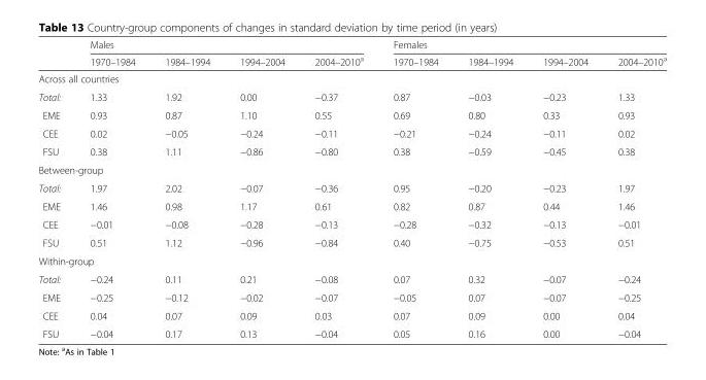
<table><thead><tr><td rowspan="2"></td><td colspan="4">Males</td><td colspan="4">Females</td></tr><tr><td>1970–1984</td><td>1984–1994</td><td>1994–2004</td><td>2004–2010<sup>a</sup></td><td>1970–1984</td><td>1984–1994</td><td>1994–2004</td><td>2004–2010<sup>a</sup></td></tr></thead><tbody><tr><td colspan="9">Across all countries</td></tr><tr><td>Total:</td><td>1.33</td><td>1.92</td><td>0.00</td><td>−0.37</td><td>0.87</td><td>−0.03</td><td>−0.23</td><td>1.33</td></tr><tr><td>EME</td><td>0.93</td><td>0.87</td><td>1.10</td><td>0.55</td><td>0.69</td><td>0.80</td><td>0.33</td><td>0.93</td></tr><tr><td>CEE</td><td>0.02</td><td>−0.05</td><td>−0.24</td><td>−0.11</td><td>−0.21</td><td>−0.24</td><td>−0.11</td><td>0.02</td></tr><tr><td>FSU</td><td>0.38</td><td>1.11</td><td>−0.86</td><td>−0.80</td><td>0.38</td><td>−0.59</td><td>−0.45</td><td>0.38</td></tr><tr><td colspan="9">Between-group</td></tr><tr><td>Total:</td><td>1.97</td><td>2.02</td><td>−0.07</td><td>−0.36</td><td>0.95</td><td>−0.20</td><td>−0.23</td><td>1.97</td></tr><tr><td>EME</td><td>1.46</td><td>0.98</td><td>1.17</td><td>0.61</td><td>0.82</td><td>0.87</td><td>0.44</td><td>1.46</td></tr><tr><td>CEE</td><td>−0.01</td><td>−0.08</td><td>−0.28</td><td>−0.13</td><td>−0.28</td><td>−0.32</td><td>−0.13</td><td>−0.01</td></tr><tr><td>FSU</td><td>0.51</td><td>1.12</td><td>−0.96</td><td>−0.84</td><td>0.40</td><td>−0.75</td><td>−0.53</td><td>0.51</td></tr><tr><td colspan="9">Within-group</td></tr><tr><td>Total:</td><td>−0.24</td><td>0.11</td><td>0.21</td><td>−0.08</td><td>0.07</td><td>0.32</td><td>−0.07</td><td>−0.24</td></tr><tr><td>EME</td><td>−0.25</td><td>−0.12</td><td>−0.02</td><td>−0.07</td><td>−0.05</td><td>0.07</td><td>−0.07</td><td>−0.25</td></tr><tr><td>CEE</td><td>0.04</td><td>0.07</td><td>0.09</td><td>0.03</td><td>0.07</td><td>0.09</td><td>0.00</td><td>0.04</td></tr><tr><td>FSU</td><td>−0.04</td><td>0.17</td><td>0.13</td><td>−0.04</td><td>0.05</td><td>0.16</td><td>0.00</td><td>−0.04</td></tr></tbody></table>